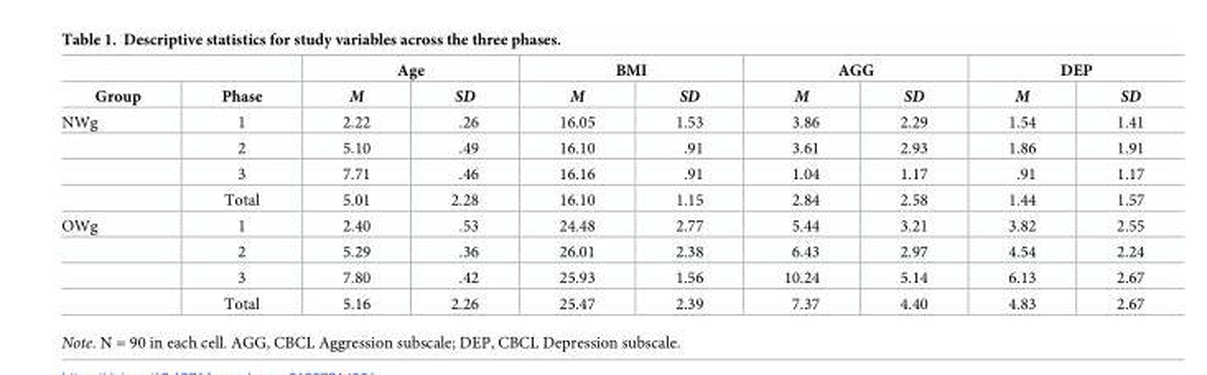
<table><thead><tr><td rowspan="2">Group</td><td rowspan="2">Phase</td><td colspan="2">Age</td><td colspan="2">BMI</td><td colspan="2">AGG</td><td colspan="2">DEP</td></tr><tr><td>M</td><td>SD</td><td>M</td><td>SD</td><td>M</td><td>SD</td><td>M</td><td>SD</td></tr></thead><tbody><tr><td rowspan="4">NWg</td><td>1</td><td>2.22</td><td>.26</td><td>16.05</td><td>1.53</td><td>3.86</td><td>2.29</td><td>1.54</td><td>1.41</td></tr><tr><td>2</td><td>5.10</td><td>.49</td><td>16.10</td><td>.91</td><td>3.61</td><td>2.93</td><td>1.86</td><td>1.91</td></tr><tr><td>3</td><td>7.71</td><td>.46</td><td>16.16</td><td>.91</td><td>1.04</td><td>1.17</td><td>.91</td><td>1.17</td></tr><tr><td>Total</td><td>5.01</td><td>2.28</td><td>16.10</td><td>1.15</td><td>2.84</td><td>2.58</td><td>1.44</td><td>1.57</td></tr><tr><td rowspan="4">OWg</td><td>1</td><td>2.40</td><td>.53</td><td>24.48</td><td>2.77</td><td>5.44</td><td>3.21</td><td>3.82</td><td>2.55</td></tr><tr><td>2</td><td>5.29</td><td>.36</td><td>26.01</td><td>2.38</td><td>6.43</td><td>2.97</td><td>4.54</td><td>2.24</td></tr><tr><td>3</td><td>7.80</td><td>.42</td><td>25.93</td><td>1.56</td><td>10.24</td><td>5.14</td><td>6.13</td><td>2.67</td></tr><tr><td>Total</td><td>5.16</td><td>2.26</td><td>25.47</td><td>2.39</td><td>7.37</td><td>4.40</td><td>4.83</td><td>2.67</td></tr></tbody></table>